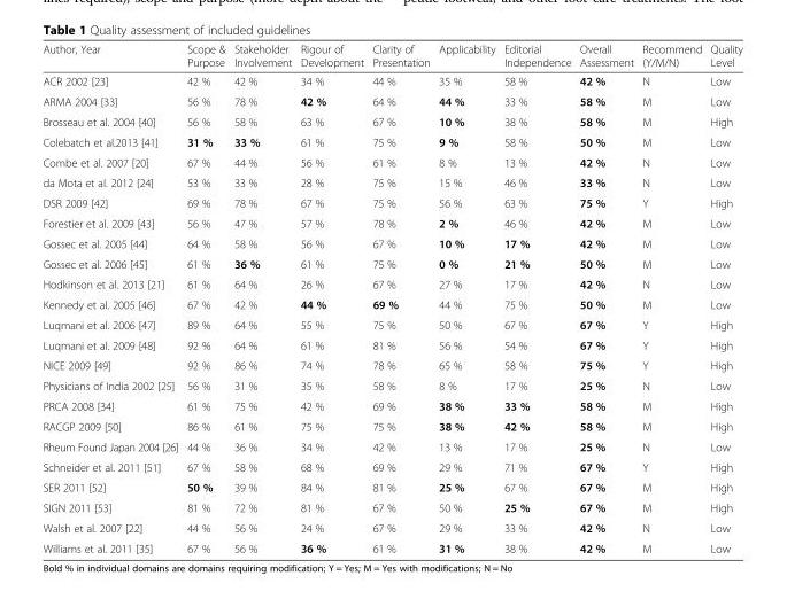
<table><thead><tr><td>Author, Year</td><td>Scope &amp; Purpose</td><td>Stakeholder Involvement</td><td>Rigour of Development</td><td>Clarity of Presentation</td><td>Applicability</td><td>Editorial Independence</td><td>Overall Assessment</td><td>Recommend (Y/M/N)</td><td>Quality Level</td></tr></thead><tbody><tr><td>ACR 2002 [23]</td><td>42 %</td><td>42 %</td><td>34 %</td><td>44 %</td><td>35 %</td><td>58 %</td><td>42 %</td><td>N</td><td>Low</td></tr><tr><td>ARMA 2004 [33]</td><td>56 %</td><td>78 %</td><td>42 %</td><td>64 %</td><td>44 %</td><td>33 %</td><td>58 %</td><td>M</td><td>Low</td></tr><tr><td>Brosseau et al. 2004 [40]</td><td>56 %</td><td>58 %</td><td>63 %</td><td>67 %</td><td>10 %</td><td>38 %</td><td>58 %</td><td>M</td><td>High</td></tr><tr><td>Colebatch et al.2013 [41]</td><td>31 %</td><td>33 %</td><td>61 %</td><td>75 %</td><td>9 %</td><td>58 %</td><td>50 %</td><td>M</td><td>Low</td></tr><tr><td>Combe et al. 2007 [20]</td><td>67 %</td><td>44 %</td><td>56 %</td><td>61 %</td><td>8 %</td><td>13 %</td><td>42 %</td><td>N</td><td>Low</td></tr><tr><td>da Mota et al. 2012 [24]</td><td>53 %</td><td>33 %</td><td>28 %</td><td>75 %</td><td>15 %</td><td>46 %</td><td>33 %</td><td>N</td><td>Low</td></tr><tr><td>DSR 2009 [42]</td><td>69 %</td><td>78 %</td><td>67 %</td><td>75 %</td><td>56 %</td><td>63 %</td><td>75 %</td><td>Y</td><td>High</td></tr><tr><td>Forestier et al. 2009 [43]</td><td>56 %</td><td>47 %</td><td>57 %</td><td>78 %</td><td>2 %</td><td>46 %</td><td>42 %</td><td>M</td><td>Low</td></tr><tr><td>Gossec et al. 2005 [44]</td><td>64 %</td><td>58 %</td><td>56 %</td><td>67 %</td><td>10 %</td><td>17 %</td><td>42 %</td><td>M</td><td>Low</td></tr><tr><td>Gossec et al. 2006 [45]</td><td>61 %</td><td>36 %</td><td>61 %</td><td>75 %</td><td>0 %</td><td>21 %</td><td>50 %</td><td>M</td><td>Low</td></tr><tr><td>Hodkinson et al. 2013 [21]</td><td>61 %</td><td>64 %</td><td>26 %</td><td>67 %</td><td>27 %</td><td>17 %</td><td>42 %</td><td>N</td><td>Low</td></tr><tr><td>Kennedy et al. 2005 [46]</td><td>67 %</td><td>42 %</td><td>44 %</td><td>69 %</td><td>44 %</td><td>75 %</td><td>50 %</td><td>M</td><td>Low</td></tr><tr><td>Luqmani et al. 2006 [47]</td><td>89 %</td><td>64 %</td><td>55 %</td><td>75 %</td><td>50 %</td><td>67 %</td><td>67 %</td><td>Y</td><td>High</td></tr><tr><td>Luqmani et al. 2009 [48]</td><td>92 %</td><td>64 %</td><td>61 %</td><td>81 %</td><td>56 %</td><td>54 %</td><td>67 %</td><td>Y</td><td>High</td></tr><tr><td>NICE 2009 [49]</td><td>92 %</td><td>86 %</td><td>74 %</td><td>78 %</td><td>65 %</td><td>58 %</td><td>75 %</td><td>Y</td><td>High</td></tr><tr><td>Physicians of India 2002 [25]</td><td>56 %</td><td>31 %</td><td>35 %</td><td>58 %</td><td>8 %</td><td>17 %</td><td>25 %</td><td>N</td><td>Low</td></tr><tr><td>PRCA 2008 [34]</td><td>61 %</td><td>75 %</td><td>42 %</td><td>69 %</td><td>38 %</td><td>33 %</td><td>58 %</td><td>M</td><td>High</td></tr><tr><td>RACGP 2009 [50]</td><td>86 %</td><td>61 %</td><td>75 %</td><td>75 %</td><td>38 %</td><td>42 %</td><td>58 %</td><td>M</td><td>High</td></tr><tr><td>Rheum Found Japan 2004 [26]</td><td>44 %</td><td>36 %</td><td>34 %</td><td>42 %</td><td>13 %</td><td>17 %</td><td>25 %</td><td>N</td><td>Low</td></tr><tr><td>Schneider et al. 2011 [51]</td><td>67 %</td><td>58 %</td><td>68 %</td><td>69 %</td><td>29 %</td><td>71 %</td><td>67 %</td><td>Y</td><td>High</td></tr><tr><td>SER 2011 [52]</td><td>50 %</td><td>39 %</td><td>84 %</td><td>81 %</td><td>25 %</td><td>67 %</td><td>67 %</td><td>M</td><td>High</td></tr><tr><td>SIGN 2011 [53]</td><td>81 %</td><td>72 %</td><td>81 %</td><td>67 %</td><td>50 %</td><td>25 %</td><td>67 %</td><td>M</td><td>High</td></tr><tr><td>Walsh et al. 2007 [22]</td><td>44 %</td><td>56 %</td><td>24 %</td><td>67 %</td><td>29 %</td><td>33 %</td><td>42 %</td><td>N</td><td>Low</td></tr><tr><td>Williams et al. 2011 [35]</td><td>67 %</td><td>56 %</td><td>36 %</td><td>61 %</td><td>31 %</td><td>38 %</td><td>42 %</td><td>M</td><td>Low</td></tr></tbody></table>